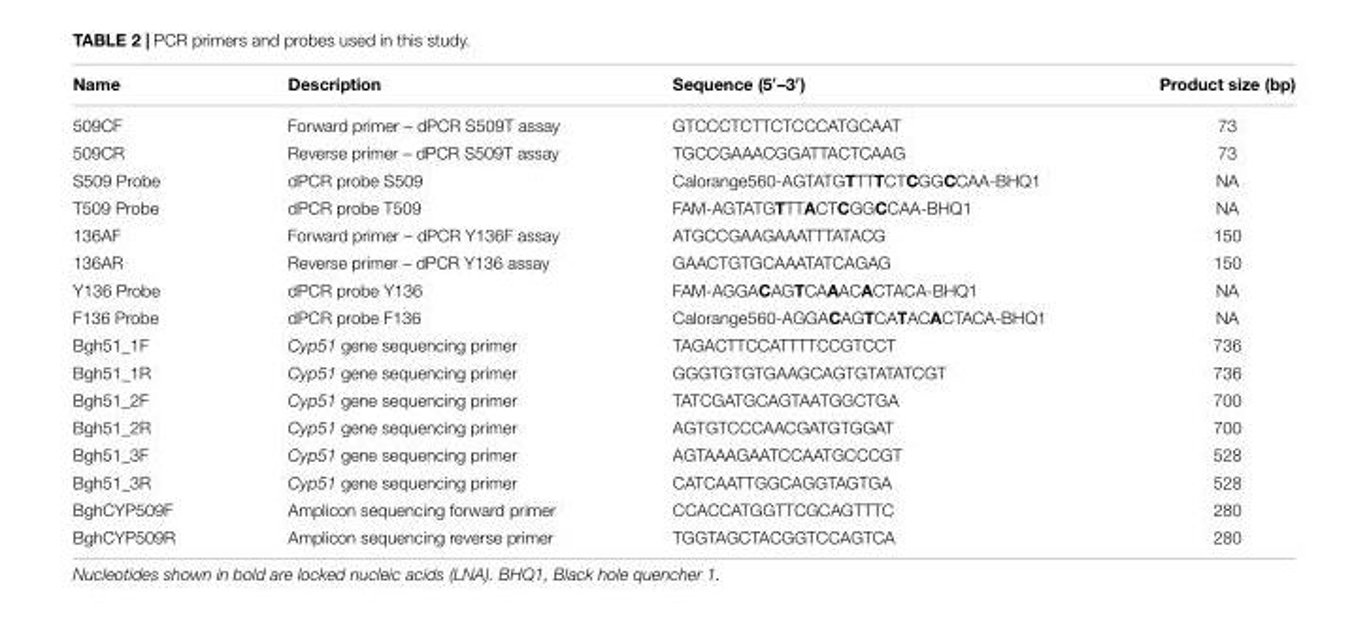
<table><thead><tr><td>Name</td><td>Description</td><td>Sequence (5′–3′)</td><td>Product size (bp)</td></tr></thead><tbody><tr><td>509CF</td><td>Forward primer – dPCR S509T assay</td><td>GTCCCTCTTCTCCCATGCAAT</td><td>73</td></tr><tr><td>509CR</td><td>Reverse primer – dPCR S509T assay</td><td>TGCCGAAACGGATTACTCAAG</td><td>73</td></tr><tr><td>S509 Probe</td><td>dPCR probe S509</td><td>Calorange560-AGTATGTTTTCTCGGCCAA-BHQ1</td><td>NA</td></tr><tr><td>T509 Probe</td><td>dPCR probe T509</td><td>FAM-AGTATGTTTACTCGGCCAA-BHQ1</td><td>NA</td></tr><tr><td>136AF</td><td>Forward primer – dPCR Y136F assay</td><td>ATGCCGAAGAAATTTATACG</td><td>150</td></tr><tr><td>136AR</td><td>Reverse primer – dPCR Y136 assay</td><td>GAACTGTGCAAATATCAGAG</td><td>150</td></tr><tr><td>Y136 Probe</td><td>dPCR probe Y136</td><td>FAM-AGGACAGTCAAACACTACA-BHQ1</td><td>NA</td></tr><tr><td>F136 Probe</td><td>dPCR probe F136</td><td>Calorange560-AGGACAGTCATACACTACA-BHQ1</td><td>NA</td></tr><tr><td>Bgh51_1F</td><td>Cyp51 gene sequencing primer</td><td>TAGACTTCCATTTTCCGTCCT</td><td>736</td></tr><tr><td>Bgh51_1R</td><td>Cyp51 gene sequencing primer</td><td>GGGTGTGTGAAGCAGTGTATATCGT</td><td>736</td></tr><tr><td>Bgh51_2F</td><td>Cyp51 gene sequencing primer</td><td>TATCGATGCAGTAATGGCTGA</td><td>700</td></tr><tr><td>Bgh51_2R</td><td>Cyp51 gene sequencing primer</td><td>AGTGTCCCAACGATGTGGAT</td><td>700</td></tr><tr><td>Bgh51_3F</td><td>Cyp51 gene sequencing primer</td><td>AGTAAAGAATCCAATGCCCGT</td><td>528</td></tr><tr><td>Bgh51_3R</td><td>Cyp51 gene sequencing primer</td><td>CATCAATTGGCAGGTAGTGA</td><td>528</td></tr><tr><td>BghCYP509F</td><td>Amplicon sequencing forward primer</td><td>CCACCATGGTTCGCAGTTTC</td><td>280</td></tr><tr><td>BghCYP509R</td><td>Amplicon sequencing reverse primer</td><td>TGGTAGCTACGGTCCAGTCA</td><td>280</td></tr></tbody></table>